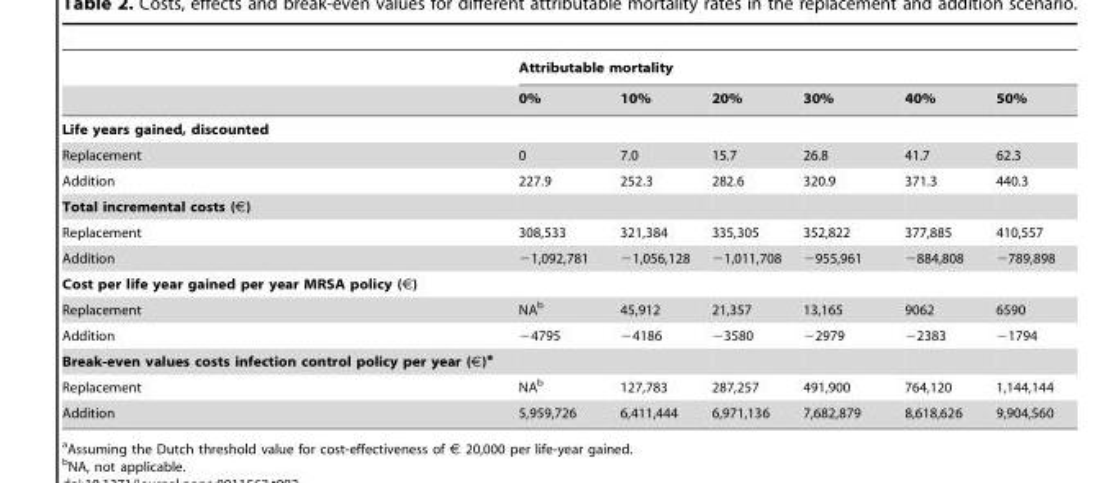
<table><thead><tr><td rowspan="2"></td><td colspan="6">Attributable mortality</td></tr><tr><td>0%</td><td>10%</td><td>20%</td><td>30%</td><td>40%</td><td>50%</td></tr></thead><tbody><tr><td colspan="7">Life years gained, discounted</td></tr><tr><td>Replacement</td><td>0</td><td>7.0</td><td>15.7</td><td>26.8</td><td>41.7</td><td>62.3</td></tr><tr><td>Addition</td><td>227.9</td><td>252.3</td><td>282.6</td><td>320.9</td><td>371.3</td><td>440.3</td></tr><tr><td colspan="7">Total incremental costs (€)</td></tr><tr><td>Replacement</td><td>308,533</td><td>321,384</td><td>335,305</td><td>352,822</td><td>377,885</td><td>410,557</td></tr><tr><td>Addition</td><td>−1,092,781</td><td>−1,056,128</td><td>−1,011,708</td><td>−955,961</td><td>−884,808</td><td>−789,898</td></tr><tr><td colspan="7">Cost per life year gained per year MRSA policy (€)</td></tr><tr><td>Replacement</td><td>NA<sup>b</sup></td><td>45,912</td><td>21,357</td><td>13,165</td><td>9062</td><td>6590</td></tr><tr><td>Addition</td><td>−4795</td><td>−4186</td><td>−3580</td><td>−2979</td><td>−2383</td><td>−1794</td></tr><tr><td colspan="7">Break-even values costs infection control policy per year (€)a</td></tr><tr><td>Replacement</td><td>NA<sup>b</sup></td><td>127,783</td><td>287,257</td><td>491,900</td><td>764,120</td><td>1,144,144</td></tr><tr><td>Addition</td><td>5,959,726</td><td>6,411,444</td><td>6,971,136</td><td>7,682,879</td><td>8,618,626</td><td>9,904,560</td></tr></tbody></table>